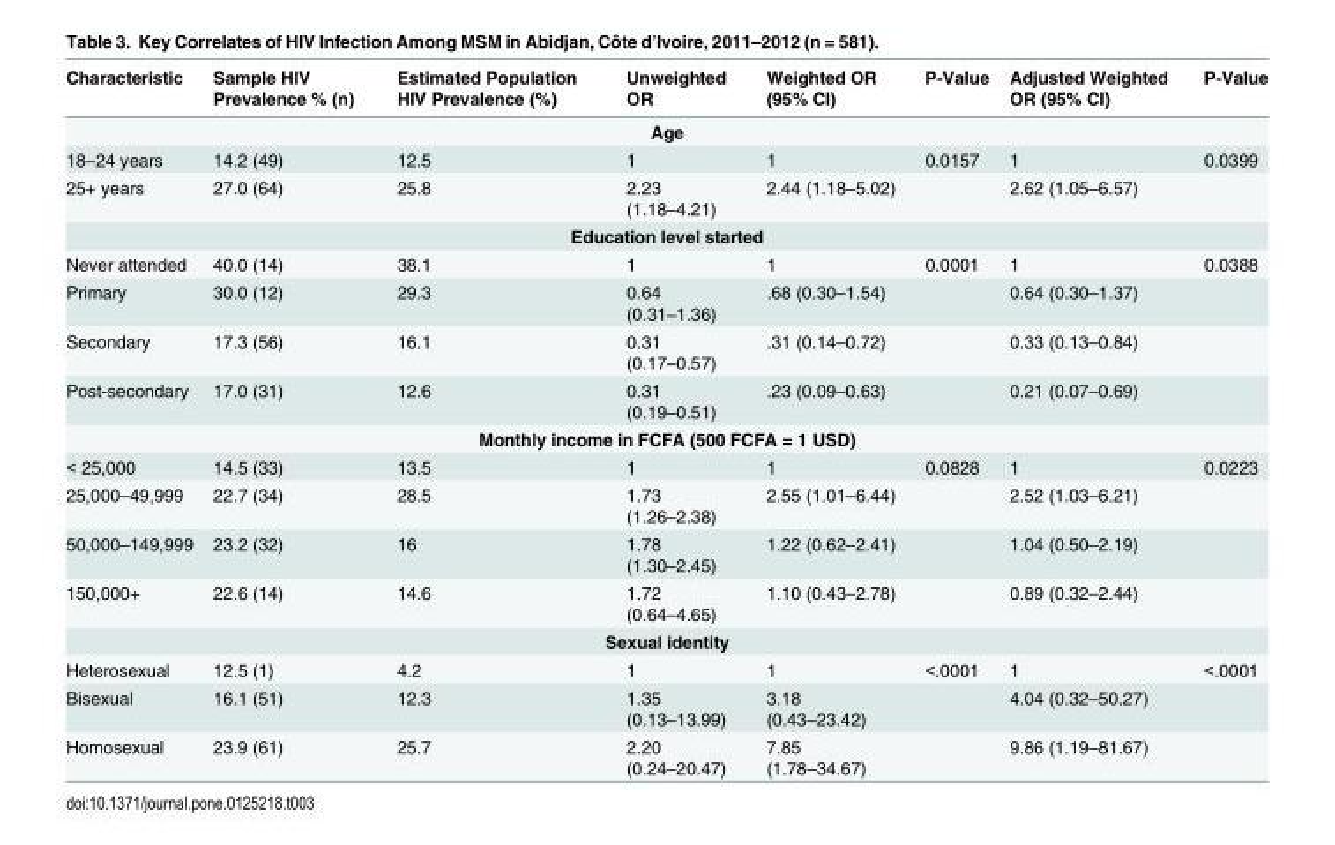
<table><thead><tr><td>Characteristic</td><td>Sample HIV Prevalence % (n)</td><td>Estimated Population HIV Prevalence (%)</td><td>Unweighted OR</td><td>Weighted OR (95% CI)</td><td>P-Value</td><td>Adjusted Weighted OR (95% CI)</td><td>P-Value</td></tr></thead><tbody><tr><td colspan="8">Age</td></tr><tr><td>18–24 years</td><td>14.2 (49)</td><td>12.5</td><td>1</td><td>1</td><td>0.0157</td><td>1</td><td>0.0399</td></tr><tr><td>25+ years</td><td>27.0 (64)</td><td>25.8</td><td>2.23 (1.18–4.21)</td><td>2.44 (1.18–5.02)</td><td></td><td>2.62 (1.05–6.57)</td><td></td></tr><tr><td colspan="8">Education level started</td></tr><tr><td>Never attended</td><td>40.0 (14)</td><td>38.1</td><td>1</td><td>1</td><td>0.0001</td><td>1</td><td>0.0388</td></tr><tr><td>Primary</td><td>30.0 (12)</td><td>29.3</td><td>0.64 (0.31–1.36)</td><td>.68 (0.30–1.54)</td><td></td><td>0.64 (0.30–1.37)</td><td></td></tr><tr><td>Secondary</td><td>17.3 (56)</td><td>16.1</td><td>0.31 (0.17–0.57)</td><td>.31 (0.14–0.72)</td><td></td><td>0.33 (0.13–0.84)</td><td></td></tr><tr><td>Post-secondary</td><td>17.0 (31)</td><td>12.6</td><td>0.31 (0.19–0.51)</td><td>.23 (0.09–0.63)</td><td></td><td>0.21 (0.07–0.69)</td><td></td></tr><tr><td colspan="8">Monthly income in FCFA (500 FCFA = 1 USD)</td></tr><tr><td>&lt; 25,000</td><td>14.5 (33)</td><td>13.5</td><td>1</td><td>1</td><td>0.0828</td><td>1</td><td>0.0223</td></tr><tr><td>25,000–49,999</td><td>22.7 (34)</td><td>28.5</td><td>1.73 (1.26–2.38)</td><td>2.55 (1.01–6.44)</td><td></td><td>2.52 (1.03–6.21)</td><td></td></tr><tr><td>50,000–149,999</td><td>23.2 (32)</td><td>16</td><td>1.78 (1.30–2.45)</td><td>1.22 (0.62–2.41)</td><td></td><td>1.04 (0.50–2.19)</td><td></td></tr><tr><td>150,000+</td><td>22.6 (14)</td><td>14.6</td><td>1.72 (0.64–4.65)</td><td>1.10 (0.43–2.78)</td><td></td><td>0.89 (0.32–2.44)</td><td></td></tr><tr><td colspan="8">Sexual identity</td></tr><tr><td>Heterosexual</td><td>12.5 (1)</td><td>4.2</td><td>1</td><td>1</td><td>&lt;.0001</td><td>1</td><td>&lt;.0001</td></tr><tr><td>Bisexual</td><td>16.1 (51)</td><td>12.3</td><td>1.35 (0.13–13.99)</td><td>3.18 (0.43–23.42)</td><td></td><td>4.04 (0.32–50.27)</td><td></td></tr><tr><td>Homosexual</td><td>23.9 (61)</td><td>25.7</td><td>2.20 (0.24–20.47)</td><td>7.85 (1.78–34.67)</td><td></td><td>9.86 (1.19–81.67)</td><td></td></tr></tbody></table>